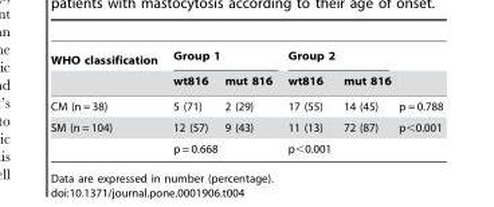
<table><thead><tr><td rowspan="2">WHO classification</td><td colspan="2">Group 1</td><td colspan="2">Group 2</td><td rowspan="2"></td></tr><tr><td>wt816</td><td>mut 816</td><td>wt816</td><td>mut 816</td></tr></thead><tbody><tr><td>CM (n = 38)</td><td>5 (71)</td><td>2 (29)</td><td>17 (55)</td><td>14 (45)</td><td>p = 0.788</td></tr><tr><td rowspan="2">SM (n = 104)</td><td>12 (57)</td><td>9 (43)</td><td>11 (13)</td><td>72 (87)</td><td>p&lt;0.001</td></tr><tr><td colspan="2">p = 0.668</td><td colspan="2">p&lt;0.001</td><td></td></tr></tbody></table>